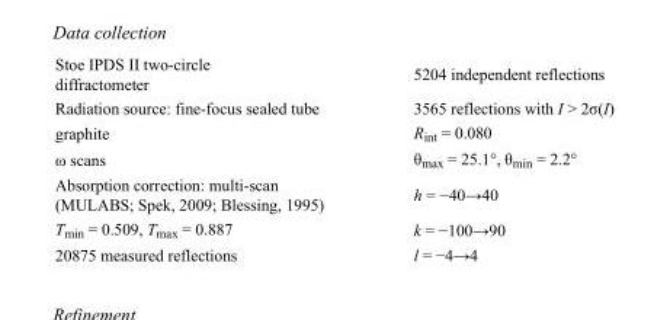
<table><tbody><tr><td>Stoe IPDS II two-circle diffractometer</td><td>5204 independent reflections</td></tr><tr><td>Radiation source: fine-focus sealed tube</td><td>3565 reflections with I &gt; 2σ(I)</td></tr><tr><td>graphite</td><td>R<sub>int</sub> = 0.080</td></tr><tr><td>ω scans</td><td>θ<sub>max</sub> = 25.1°, θ<sub>min</sub> = 2.2°</td></tr><tr><td>Absorption correction: multi-scan (MULABS; Spek, 2009; Blessing, 1995)</td><td>h = −40→40</td></tr><tr><td>T<sub>min</sub> = 0.509, T<sub>max</sub> = 0.887</td><td>k = −100→90</td></tr><tr><td>20875 measured reflections</td><td>l = −4→4</td></tr></tbody></table>